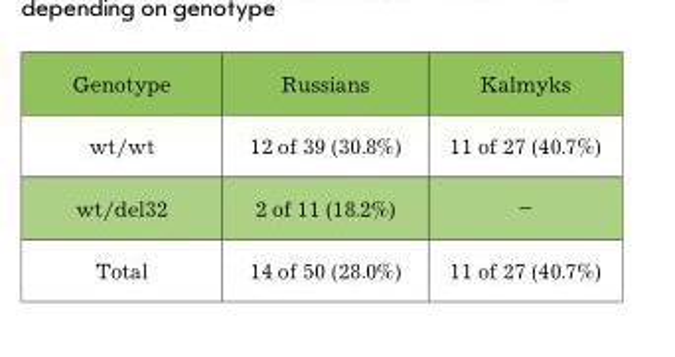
<table><thead><tr><td>Genotype</td><td>russians</td><td>Kalmyks</td></tr></thead><tbody><tr><td>wt/wt</td><td>12 of 39 (30.8%)</td><td>11 of 27 (40.7%)</td></tr><tr><td>wt/del32</td><td>2 of 11 (18.2%)</td><td>–</td></tr><tr><td>total</td><td>14 of 50 (28.0%)</td><td>11 of 27 (40.7%)</td></tr></tbody></table>